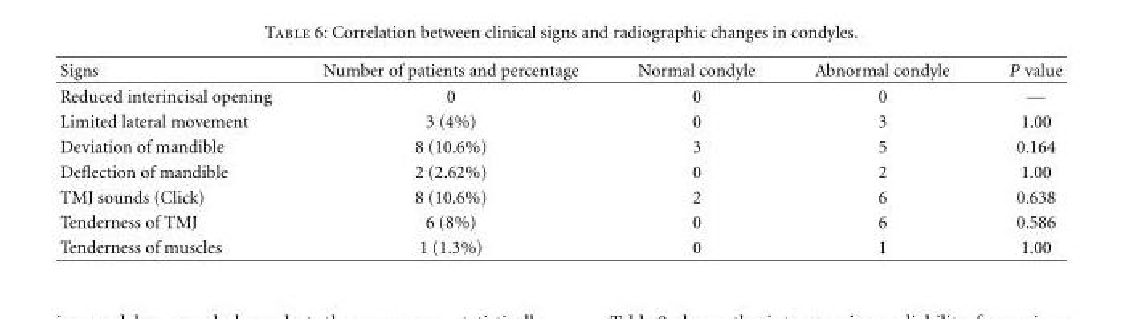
<table><thead><tr><td>Signs</td><td>Number of patients and percentage</td><td>Normal condyle</td><td>Abnormal condyle</td><td>P value</td></tr></thead><tbody><tr><td>Reduced interincisal opening</td><td>0</td><td>0</td><td>0</td><td>—</td></tr><tr><td>Limited lateral movement</td><td>3 (4%)</td><td>0</td><td>3</td><td>1.00</td></tr><tr><td>Deviation of mandible</td><td>8 (10.6%)</td><td>3</td><td>5</td><td>0.164</td></tr><tr><td>Deflection of mandible</td><td>2 (2.62%)</td><td>0</td><td>2</td><td>1.00</td></tr><tr><td>TMJ sounds (Click)</td><td>8 (10.6%)</td><td>2</td><td>6</td><td>0.638</td></tr><tr><td>Tenderness of TMJ</td><td>6 (8%)</td><td>0</td><td>6</td><td>0.586</td></tr><tr><td>Tenderness of muscles</td><td>1 (1.3%)</td><td>0</td><td>1</td><td>1.00</td></tr></tbody></table>